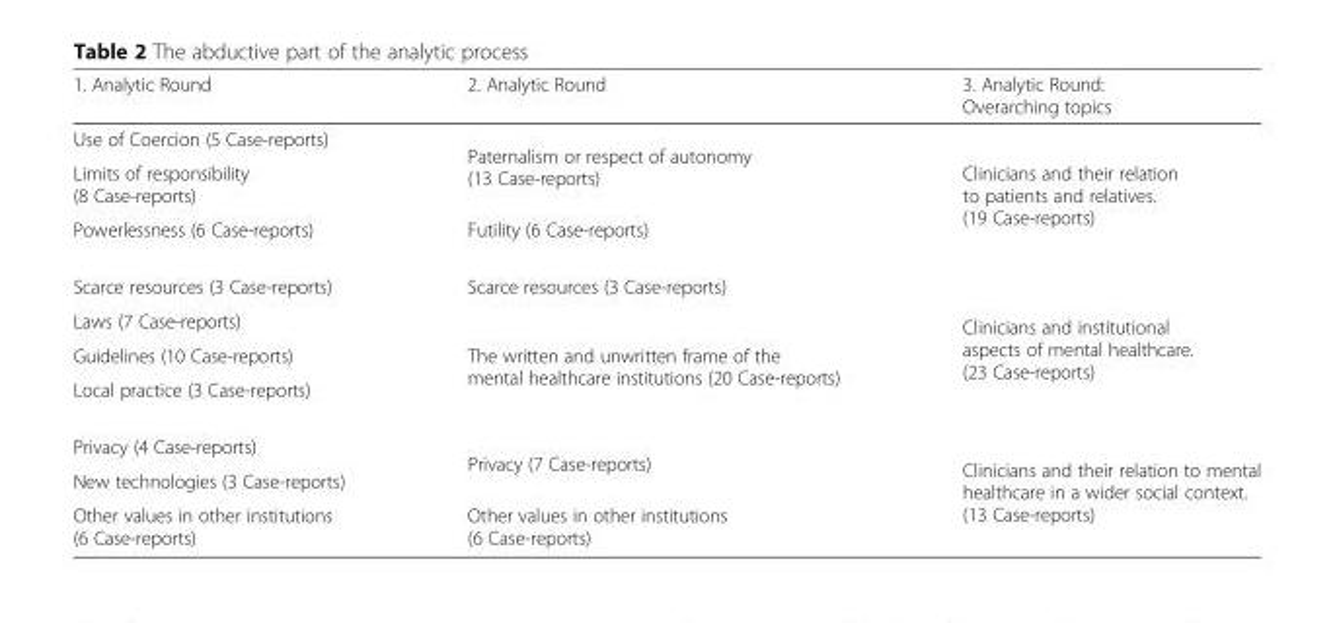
<table><thead><tr><td>1. Analytic Round</td><td>2. Analytic Round</td><td>3. Analytic Round: Overarching topics</td></tr></thead><tbody><tr><td>Use of Coercion (5 Case-reports)</td><td rowspan="2">Paternalism or respect of autonomy (13 Case-reports)</td><td rowspan="3">Clinicians and their relation to patients and relatives. (19 Case-reports)</td></tr><tr><td>Limits of responsibility (8 Case-reports)</td></tr><tr><td>Powerlessness (6 Case-reports)</td><td>Futility (6 Case-reports)</td></tr><tr><td>Scarce resources (3 Case-reports)</td><td>Scarce resources (3 Case-reports)</td><td rowspan="4">Clinicians and institutional aspects of mental healthcare. (23 Case-reports)</td></tr><tr><td>Laws (7 Case-reports)</td><td rowspan="3">The written and unwritten frame of the mental healthcare institutions (20 Case-reports)</td></tr><tr><td>Guidelines (10 Case-reports)</td></tr><tr><td>Local practice (3 Case-reports)</td></tr><tr><td>Privacy (4 Case-reports)</td><td rowspan="2">Privacy (7 Case-reports)</td><td rowspan="3">Clinicians and their relation to mental healthcare in a wider social context. (13 Case-reports)</td></tr><tr><td>New technologies (3 Case-reports)</td></tr><tr><td>Other values in other institutions (6 Case-reports)</td><td>Other values in other institutions (6 Case-reports)</td></tr></tbody></table>